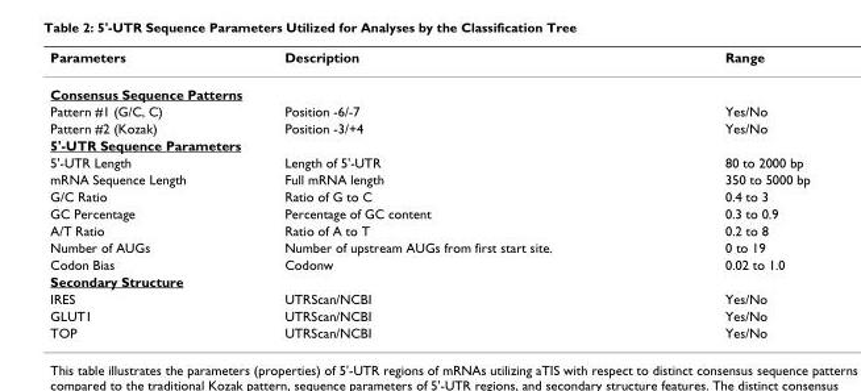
<table><thead><tr><td>Parameters</td><td>Description</td><td>Range</td></tr></thead><tbody><tr><td colspan="3">Consensus Sequence Patterns</td></tr><tr><td>Pattern #1 (G/C, C)</td><td>Position -6/-7</td><td>Yes/No</td></tr><tr><td>Pattern #2 (Kozak)</td><td>Position -3/+4</td><td>Yes/No</td></tr><tr><td colspan="3">5&#x27;-UTR Sequence Parameters</td></tr><tr><td>5&#x27;-UTR Length</td><td>Length of 5&#x27;-UTR</td><td>80 to 2000 bp</td></tr><tr><td>mRNA Sequence Length</td><td>Full mRNA length</td><td>350 to 5000 bp</td></tr><tr><td>G/C Ratio</td><td>Ratio of G to C</td><td>0.4 to 3</td></tr><tr><td>GC Percentage</td><td>Percentage of GC content</td><td>0.3 to 0.9</td></tr><tr><td>A/T Ratio</td><td>Ratio of A to T</td><td>0.2 to 8</td></tr><tr><td>Number of AUGs</td><td>Number of upstream AUGs from first start site.</td><td>0 to 19</td></tr><tr><td>Codon Bias</td><td>Codonw</td><td>0.02 to 1.0</td></tr><tr><td colspan="3">Secondary Structure</td></tr><tr><td>IRES</td><td>UTRScan/NCBI</td><td>Yes/No</td></tr><tr><td>GLUT1</td><td>UTRScan/NCBI</td><td>Yes/No</td></tr><tr><td>TOP</td><td>UTRScan/NCBI</td><td>Yes/No</td></tr></tbody></table>